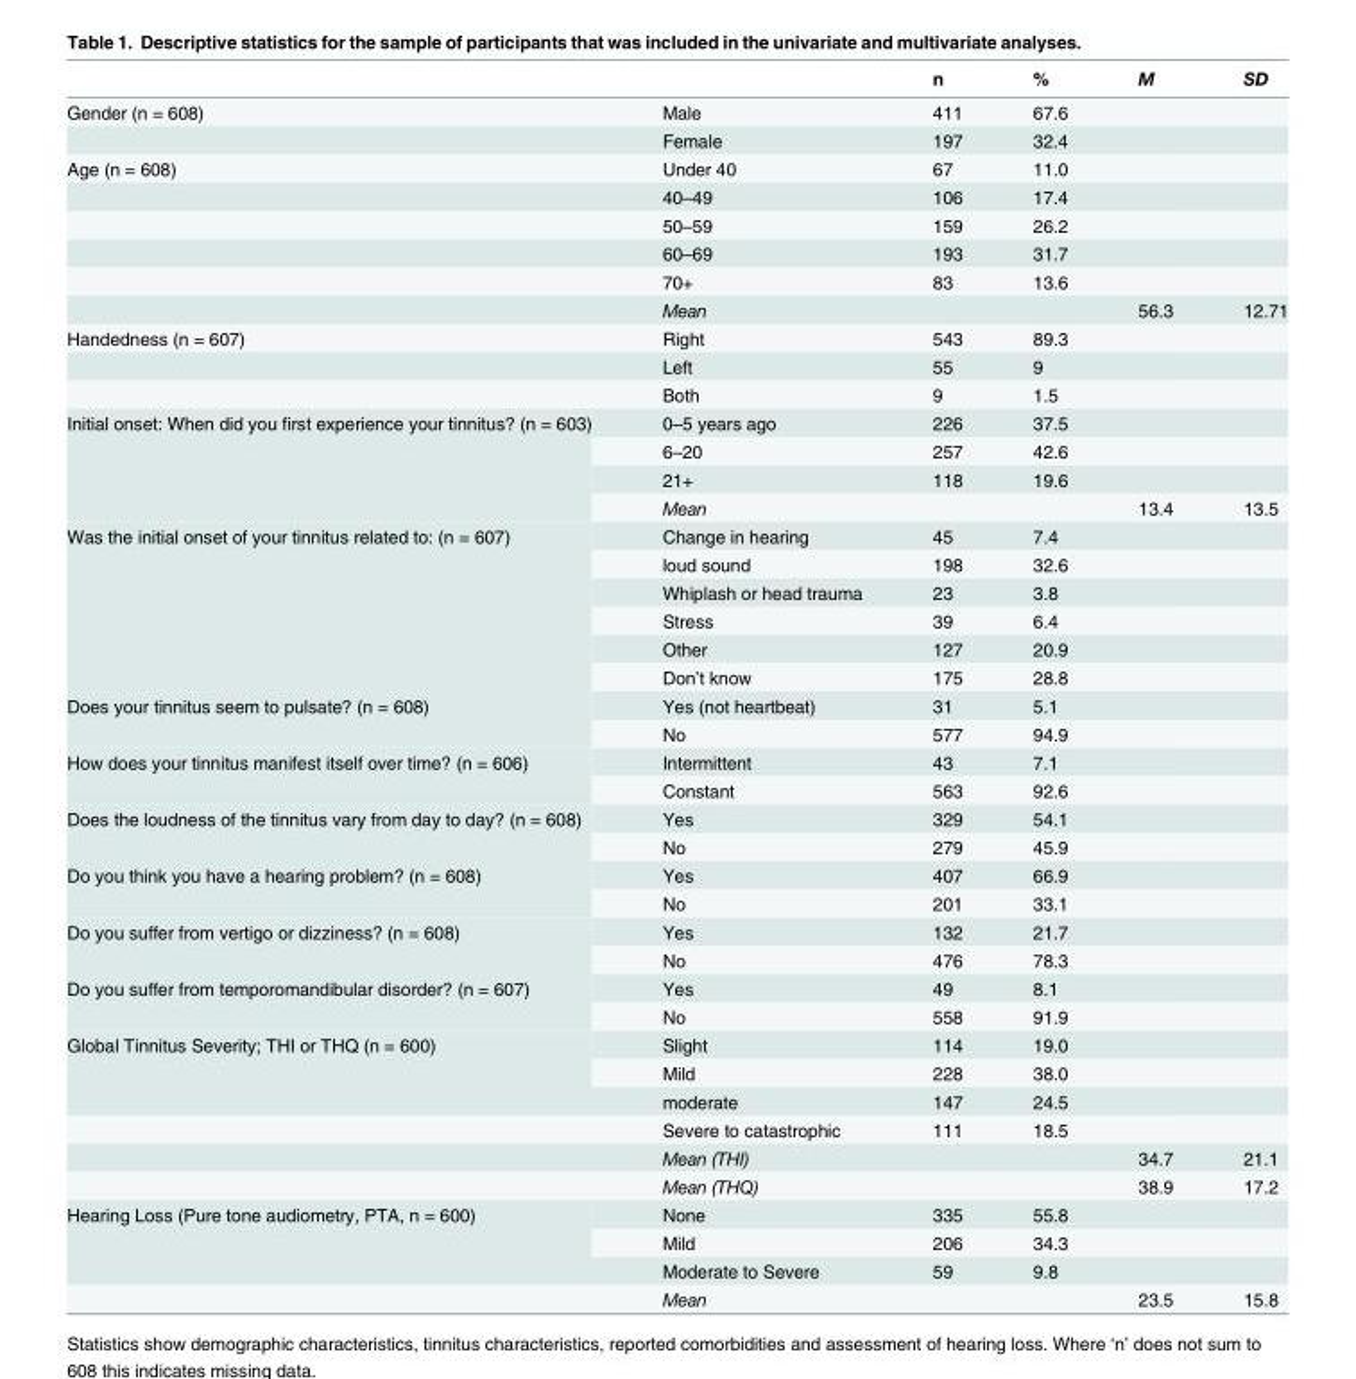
<table><thead><tr><td></td><td></td><td>n</td><td>%</td><td>M</td><td>SD</td></tr></thead><tbody><tr><td rowspan="2">Gender (n = 608)</td><td>Male</td><td>411</td><td>67.6</td><td></td><td></td></tr><tr><td>Female</td><td>197</td><td>32.4</td><td></td><td></td></tr><tr><td rowspan="6">Age (n = 608)</td><td>Under 40</td><td>67</td><td>11.0</td><td></td><td></td></tr><tr><td>40–49</td><td>106</td><td>17.4</td><td></td><td></td></tr><tr><td>50–59</td><td>159</td><td>26.2</td><td></td><td></td></tr><tr><td>60–69</td><td>193</td><td>31.7</td><td></td><td></td></tr><tr><td>70+</td><td>83</td><td>13.6</td><td></td><td></td></tr><tr><td>Mean</td><td></td><td></td><td>56.3</td><td>12.71</td></tr><tr><td rowspan="3">Handedness (n = 607)</td><td>Right</td><td>543</td><td>89.3</td><td></td><td></td></tr><tr><td>Left</td><td>55</td><td>9</td><td></td><td></td></tr><tr><td>Both</td><td>9</td><td>1.5</td><td></td><td></td></tr><tr><td rowspan="4">Initial onset: When did you first experience your tinnitus? (n = 603)</td><td>0–5 years ago</td><td>226</td><td>37.5</td><td></td><td></td></tr><tr><td>6–20</td><td>257</td><td>42.6</td><td></td><td></td></tr><tr><td>21+</td><td>118</td><td>19.6</td><td></td><td></td></tr><tr><td>Mean</td><td></td><td></td><td>13.4</td><td>13.5</td></tr><tr><td rowspan="6">Was the initial onset of your tinnitus related to: (n = 607)</td><td>Change in hearing</td><td>45</td><td>7.4</td><td></td><td></td></tr><tr><td>loud sound</td><td>198</td><td>32.6</td><td></td><td></td></tr><tr><td>Whiplash or head trauma</td><td>23</td><td>3.8</td><td></td><td></td></tr><tr><td>Stress</td><td>39</td><td>6.4</td><td></td><td></td></tr><tr><td>Other</td><td>127</td><td>20.9</td><td></td><td></td></tr><tr><td>Don’t know</td><td>175</td><td>28.8</td><td></td><td></td></tr><tr><td rowspan="2">Does your tinnitus seem to pulsate? (n = 608)</td><td>Yes (not heartbeat)</td><td>31</td><td>5.1</td><td></td><td></td></tr><tr><td>No</td><td>577</td><td>94.9</td><td></td><td></td></tr><tr><td rowspan="2">How does your tinnitus manifest itself over time? (n = 606)</td><td>Intermittent</td><td>43</td><td>7.1</td><td></td><td></td></tr><tr><td>Constant</td><td>563</td><td>92.6</td><td></td><td></td></tr><tr><td rowspan="2">Does the loudness of the tinnitus vary from day to day? (n = 608)</td><td>Yes</td><td>329</td><td>54.1</td><td></td><td></td></tr><tr><td>No</td><td>279</td><td>45.9</td><td></td><td></td></tr><tr><td rowspan="2">Do you think you have a hearing problem? (n = 608)</td><td>Yes</td><td>407</td><td>66.9</td><td></td><td></td></tr><tr><td>No</td><td>201</td><td>33.1</td><td></td><td></td></tr><tr><td rowspan="2">Do you suffer from vertigo or dizziness? (n = 608)</td><td>Yes</td><td>132</td><td>21.7</td><td></td><td></td></tr><tr><td>No</td><td>476</td><td>78.3</td><td></td><td></td></tr><tr><td rowspan="2">Do you suffer from temporomandibular disorder? (n = 607)</td><td>Yes</td><td>49</td><td>8.1</td><td></td><td></td></tr><tr><td>No</td><td>558</td><td>91.9</td><td></td><td></td></tr><tr><td rowspan="6">Global Tinnitus Severity; THI or THQ (n = 600)</td><td>Slight</td><td>114</td><td>19.0</td><td></td><td></td></tr><tr><td>Mild</td><td>228</td><td>38.0</td><td></td><td></td></tr><tr><td>moderate</td><td>147</td><td>24.5</td><td></td><td></td></tr><tr><td>Severe to catastrophic</td><td>111</td><td>18.5</td><td></td><td></td></tr><tr><td>Mean (THI)</td><td></td><td></td><td>34.7</td><td>21.1</td></tr><tr><td>Mean (THQ)</td><td></td><td></td><td>38.9</td><td>17.2</td></tr><tr><td rowspan="4">Hearing Loss (Pure tone audiometry, PTA, n = 600)</td><td>None</td><td>335</td><td>55.8</td><td></td><td></td></tr><tr><td>Mild</td><td>206</td><td>34.3</td><td></td><td></td></tr><tr><td>Moderate to Severe</td><td>59</td><td>9.8</td><td></td><td></td></tr><tr><td>Mean</td><td></td><td></td><td>23.5</td><td>15.8</td></tr></tbody></table>